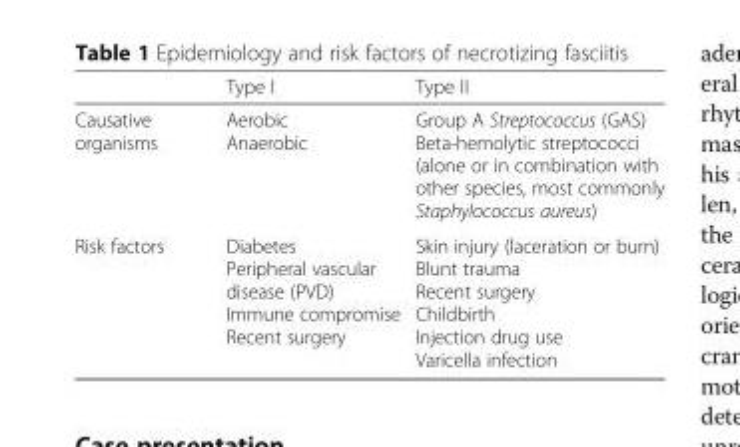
<table><thead><tr><td></td><td>Type I</td><td>Type II</td></tr></thead><tbody><tr><td>Causative organisms</td><td>Aerobic Anaerobic</td><td>Group A Streptococcus (GAS) Beta-hemolytic streptococci (alone or in combination with other species, most commonly Staphylococcus aureus)</td></tr><tr><td>Risk factors</td><td>Diabetes Peripheral vascular disease (PVD) Immune compromise Recent surgery</td><td>Skin injury (laceration or burn) Blunt trauma Recent surgery Childbirth Injection drug use Varicella infection</td></tr></tbody></table>